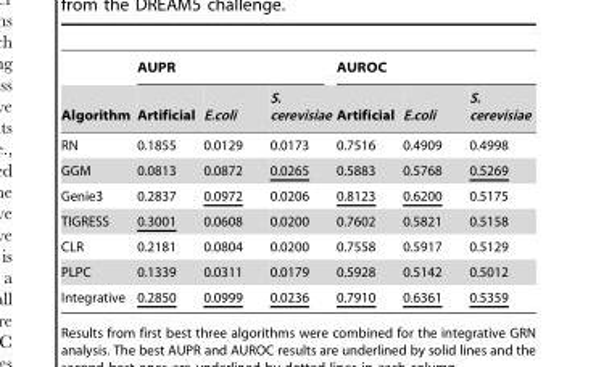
<table><thead><tr><td rowspan="2">Algorithm</td><td colspan="3">AUPR</td><td colspan="3">AUROC</td></tr><tr><td>Artificial</td><td>E.coli</td><td>S. cerevisiae</td><td>Artificial</td><td>E.coli</td><td>S. cerevisiae</td></tr></thead><tbody><tr><td>RN</td><td>0.1855</td><td>0.0129</td><td>0.0173</td><td>0.7516</td><td>0.4909</td><td>0.4998</td></tr><tr><td>GGM</td><td>0.0813</td><td>0.0872</td><td>0.0265</td><td>0.5883</td><td>0.5768</td><td>0.5269</td></tr><tr><td>Genie3</td><td>0.2837</td><td>0.0972</td><td>0.0206</td><td>0.8123</td><td>0.6200</td><td>0.5175</td></tr><tr><td>TIGRESS</td><td>0.3001</td><td>0.0608</td><td>0.0200</td><td>0.7602</td><td>0.5821</td><td>0.5158</td></tr><tr><td>CLR</td><td>0.2181</td><td>0.0804</td><td>0.0200</td><td>0.7558</td><td>0.5917</td><td>0.5129</td></tr><tr><td>PLPC</td><td>0.1339</td><td>0.0311</td><td>0.0179</td><td>0.5928</td><td>0.5142</td><td>0.5012</td></tr><tr><td>Integrative</td><td>0.2850</td><td>0.0999</td><td>0.0236</td><td>0.7910</td><td>0.6361</td><td>0.5359</td></tr></tbody></table>